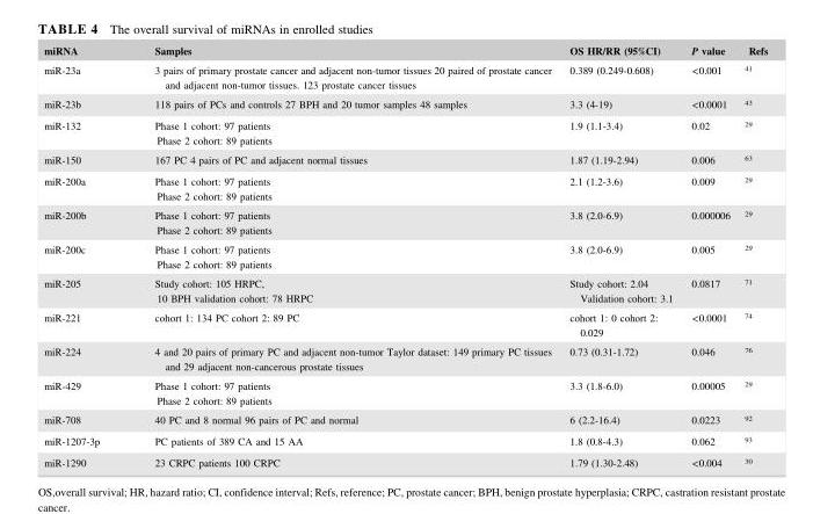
<table><thead><tr><td>miRNA</td><td>Samples</td><td>OS HR/RR (95%CI)</td><td>P value</td><td>Refs</td></tr></thead><tbody><tr><td>miR-23a</td><td>3 pairs of primary prostate cancer and adjacent non-tumor tissues 20 paired of prostate cancer and adjacent non-tumor tissues. 123 prostate cancer tissues</td><td>0.389 (0.249-0.608)</td><td>&lt;0.001</td><td>41</td></tr><tr><td>miR-23b</td><td>118 pairs of PCs and controls 27 BPH and 20 tumor samples 48 samples</td><td>3.3 (4-19)</td><td>&lt;0.0001</td><td>43</td></tr><tr><td>miR-132</td><td>Phase 1 cohort: 97 patients Phase 2 cohort: 89 patients</td><td>1.9 (1.1-3.4)</td><td>0.02</td><td>29</td></tr><tr><td>miR-150</td><td>167 PC 4 pairs of PC and adjacent normal tissues</td><td>1.87 (1.19-2.94)</td><td>0.006</td><td>63</td></tr><tr><td>miR-200a</td><td>Phase 1 cohort: 97 patients Phase 2 cohort: 89 patients</td><td>2.1 (1.2-3.6)</td><td>0.009</td><td>29</td></tr><tr><td>miR-200b</td><td>Phase 1 cohort: 97 patients Phase 2 cohort: 89 patients</td><td>3.8 (2.0-6.9)</td><td>0.000006</td><td>29</td></tr><tr><td>miR-200c</td><td>Phase 1 cohort: 97 patients Phase 2 cohort: 89 patients</td><td>3.8 (2.0-6.9)</td><td>0.005</td><td>29</td></tr><tr><td>miR-205</td><td>Study cohort: 105 HRPC, 10 BPH validation cohort: 78 HRPC</td><td>Study cohort: 2.04 Validation cohort: 3.1</td><td>0.0817</td><td>71</td></tr><tr><td>miR-221</td><td>cohort 1: 134 PC cohort 2: 89 PC</td><td>cohort 1: 0 cohort 2: 0.029</td><td>&lt;0.0001</td><td>74</td></tr><tr><td>miR-224</td><td>4 and 20 pairs of primary PC and adjacent non-tumor Taylor dataset: 149 primary PC tissues and 29 adjacent non-cancerous prostate tissues</td><td>0.73 (0.31-1.72)</td><td>0.046</td><td>76</td></tr><tr><td>miR-429</td><td>Phase 1 cohort: 97 patients Phase 2 cohort: 89 patients</td><td>3.3 (1.8-6.0)</td><td>0.00005</td><td>29</td></tr><tr><td>miR-708</td><td>40 PC and 8 normal 96 pairs of PC and normal</td><td>6 (2.2-16.4)</td><td>0.0223</td><td>92</td></tr><tr><td>miR-1207-3p</td><td>PC patients of 389 CA and 15 AA</td><td>1.8 (0.8-4.3)</td><td>0.062</td><td>93</td></tr><tr><td>miR-1290</td><td>23 CRPC patients 100 CRPC</td><td>1.79 (1.30-2.48)</td><td>&lt;0.004</td><td>30</td></tr></tbody></table>